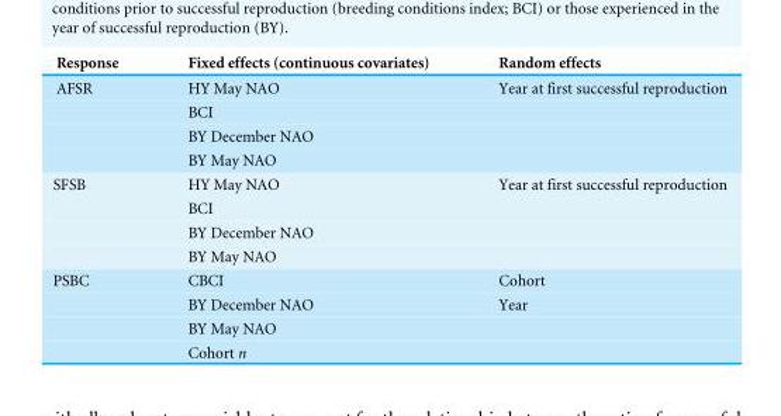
<table><thead><tr><td>Response</td><td>Fixed effects (continuous covariates)</td><td>Random effects</td></tr></thead><tbody><tr><td rowspan="4">AFSR</td><td>HY May NAO</td><td>Year at first successful reproduction</td></tr><tr><td>BCI</td><td></td></tr><tr><td>BY December NAO</td><td></td></tr><tr><td>BY May NAO</td><td></td></tr><tr><td rowspan="4">SFSB</td><td>HY May NAO</td><td>Year at first successful reproduction</td></tr><tr><td>BCI</td><td></td></tr><tr><td>BY December NAO</td><td></td></tr><tr><td>BY May NAO</td><td></td></tr><tr><td rowspan="4">PSBC</td><td>CBCI</td><td>Cohort</td></tr><tr><td>BY December NAO</td><td>Year</td></tr><tr><td>BY May NAO</td><td></td></tr><tr><td>Cohort n</td><td></td></tr></tbody></table>